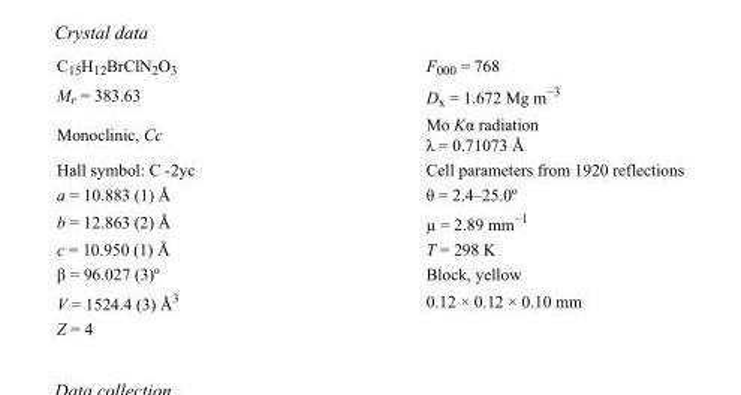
<table><tbody><tr><td>C<sub>15</sub>H<sub>12</sub>BrClN<sub>2</sub>O<sub>3</sub></td><td>F000 = 768</td></tr><tr><td>M<sub>r</sub> = 383.63</td><td>D<sub>x</sub> = 1.672 Mg m<sup>−3</sup></td></tr><tr><td>Monoclinic, Cc</td><td>Mo Kα radiation λ = 0.71073 Å</td></tr><tr><td>Hall symbol: C -2yc</td><td>Cell parameters from 1920 reflections</td></tr><tr><td>a = 10.883 (1) Å</td><td>θ = 2.4–25.0º</td></tr><tr><td>b = 12.863 (2) Å</td><td>µ = 2.89 mm<sup>−1</sup></td></tr><tr><td>c = 10.950 (1) Å</td><td>T = 298 K</td></tr><tr><td>β = 96.027 (3)º</td><td>Block, yellow</td></tr><tr><td>V = 1524.4 (3) Å<sup>3</sup></td><td>0.12 × 0.12 × 0.10 mm</td></tr><tr><td>Z = 4</td><td></td></tr></tbody></table>